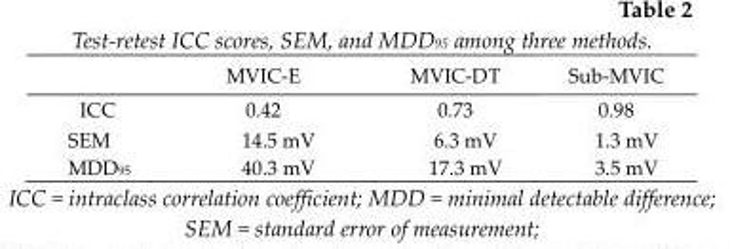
<table><thead><tr><td></td><td>MVIC-E</td><td>MVIC-DT</td><td>Sub-MVIC</td></tr></thead><tbody><tr><td>ICC</td><td>0.42</td><td>0.73</td><td>0.98</td></tr><tr><td>SEM</td><td>14.5 mV</td><td>6.3 mV</td><td>1.3 mV</td></tr><tr><td>MDD<sub>95</sub></td><td>40.3 mV</td><td>17.3 mV</td><td>3.5 mV</td></tr></tbody></table>